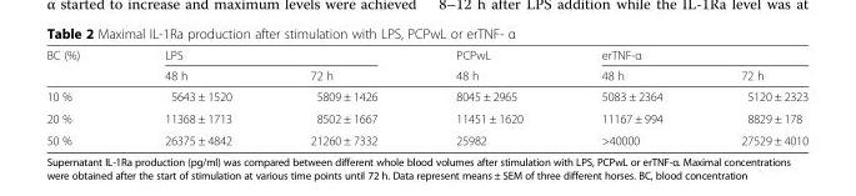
<table><thead><tr><td rowspan="2">BC (%)</td><td colspan="2">LPS</td><td rowspan="2">PCPwL 48 h</td><td colspan="2">erTNF-α</td></tr><tr><td>48 h</td><td>72 h</td><td>48 h</td><td>72 h</td></tr></thead><tbody><tr><td>10 %</td><td>5643 ± 1520</td><td>5809 ± 1426</td><td>8045 ± 2965</td><td>5083 ± 2364</td><td>5120 ± 2323</td></tr><tr><td>20 %</td><td>11368 ± 1713</td><td>8502 ± 1667</td><td>11451 ± 1620</td><td>11167 ± 994</td><td>8829 ± 178</td></tr><tr><td>50 %</td><td>26375 ± 4842</td><td>21260 ± 7332</td><td>25982</td><td>&gt;40000</td><td>27529 ± 4010</td></tr></tbody></table>